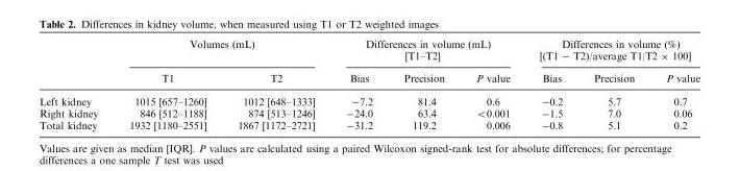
<table><thead><tr><td rowspan="2"></td><td colspan="2">Volumes (mL)</td><td colspan="3">Differences in volume (mL) [T1–T2]</td><td colspan="3">Differences in volume (%) [(T1 - T2)/average T1|T2 × 100]</td></tr><tr><td>T1</td><td>T2</td><td>Bias</td><td>Precision</td><td>P value</td><td>Bias</td><td>Precision</td><td>P value</td></tr></thead><tbody><tr><td>Left kidney</td><td>1015 [657–1260]</td><td>1012 [648–1333]</td><td>-7.2</td><td>81.4</td><td>0.6</td><td>-0.2</td><td>5.7</td><td>0.7</td></tr><tr><td>Right kidney</td><td>846 [512–1188]</td><td>874 [513–1246]</td><td>-24.0</td><td>63.4</td><td>&lt;0.001</td><td>-1.5</td><td>7.0</td><td>0.06</td></tr><tr><td>Total kidney</td><td>1932 [1180–2551]</td><td>1867 [1172–2721]</td><td>-31.2</td><td>119.2</td><td>0.006</td><td>-0.8</td><td>5.1</td><td>0.2</td></tr></tbody></table>